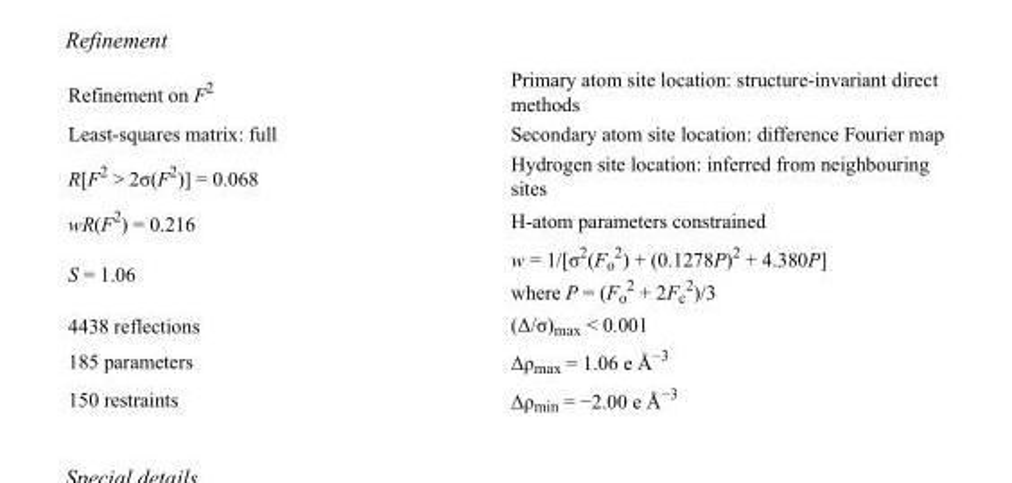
<table><tbody><tr><td>Refinement on F<sup>2</sup></td><td>Primary atom site location: structure-invariant direct methods</td></tr><tr><td>Least-squares matrix: full</td><td>Secondary atom site location: difference Fourier map</td></tr><tr><td>R[F<sup>2</sup> &gt; 2σ(F<sup>2</sup>)] = 0.068</td><td>Hydrogen site location: inferred from neighbouring sites</td></tr><tr><td>wR(F<sup>2</sup>) = 0.216</td><td>H-atom parameters constrained</td></tr><tr><td>S = 1.06</td><td>w = 1/[σ<sup>2</sup>(F<sub>o</sub> <sup>2</sup>) + (0.1278P)<sup>2</sup> + 4.380P] where P = (F<sub>o</sub> <sup>2</sup> + 2F<sub>c</sub> <sup>2</sup>)/3</td></tr><tr><td>4438 reflections</td><td>(Δ/σ)<sub>max</sub> &lt; 0.001</td></tr><tr><td>185 parameters</td><td>Δρ<sub>max</sub> = 1.06 e Å<sup>−3</sup></td></tr><tr><td>150 restraints</td><td>Δρ<sub>min</sub> = −2.00 e Å<sup>−3</sup></td></tr></tbody></table>